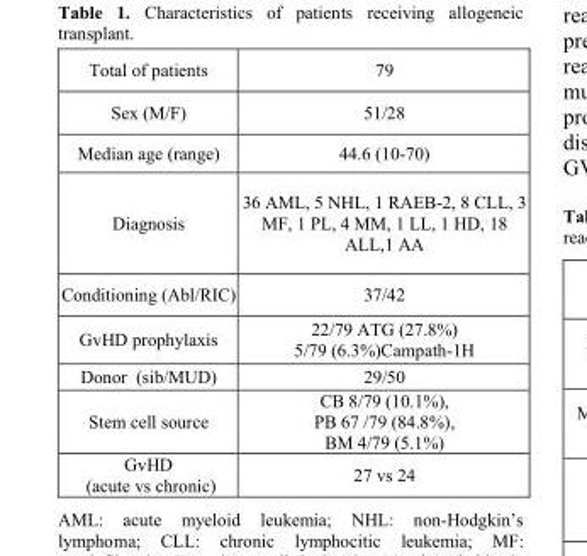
<table><tbody><tr><td>Total of patients</td><td>79</td></tr><tr><td>Sex (M/F)</td><td>51/28</td></tr><tr><td>Median age (range)</td><td>44.6 (10-70)</td></tr><tr><td>Diagnosis</td><td>36 AML, 5 NHL, 1 RAEB-2, 8 CLL, 3 MF, 1 PL, 4 MM, 1 LL, 1 HD, 18 ALL,1 AA</td></tr><tr><td>Conditioning (Abl/RIC)</td><td>37/42</td></tr><tr><td>GvHD prophylaxis</td><td>22/79 ATG (27.8%) 5/79 (6.3%)Campath-1H</td></tr><tr><td>Donor (sib/MUD)</td><td>29/50</td></tr><tr><td>Stem cell source</td><td>CB 8/79 (10.1%), PB 67 /79 (84.8%), BM 4/79 (5.1%)</td></tr><tr><td>GvHD (acute vs chronic)</td><td>27 vs 24</td></tr></tbody></table>